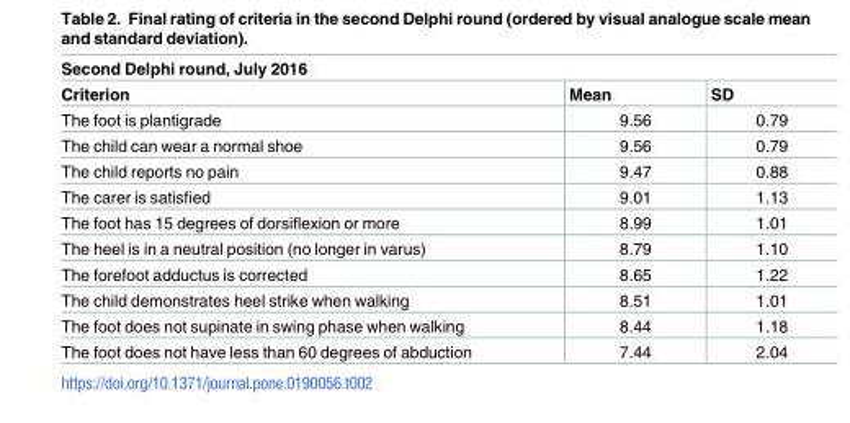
<table><thead><tr><td colspan="3">Second Delphi round, July 2016</td></tr><tr><td>Criterion</td><td>Mean</td><td>SD</td></tr></thead><tbody><tr><td>The foot is plantigrade</td><td>9.56</td><td>0.79</td></tr><tr><td>The child can wear a normal shoe</td><td>9.56</td><td>0.79</td></tr><tr><td>The child reports no pain</td><td>9.47</td><td>0.88</td></tr><tr><td>The carer is satisfied</td><td>9.01</td><td>1.13</td></tr><tr><td>The foot has 15 degrees of dorsiflexion or more</td><td>8.99</td><td>1.01</td></tr><tr><td>The heel is in a neutral position (no longer in varus)</td><td>8.79</td><td>1.10</td></tr><tr><td>The forefoot adductus is corrected</td><td>8.65</td><td>1.22</td></tr><tr><td>The child demonstrates heel strike when walking</td><td>8.51</td><td>1.01</td></tr><tr><td>The foot does not supinate in swing phase when walking</td><td>8.44</td><td>1.18</td></tr><tr><td>The foot does not have less than 60 degrees of abduction</td><td>7.44</td><td>2.04</td></tr></tbody></table>